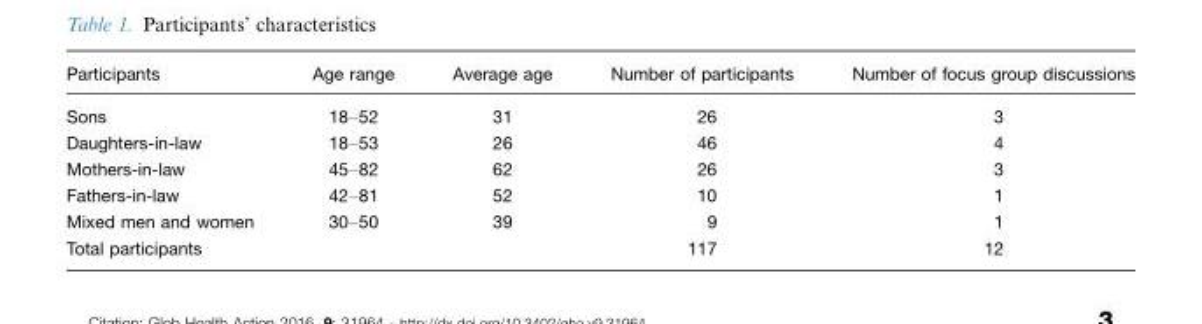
<table><thead><tr><td>Participants</td><td>Age range</td><td>Average age</td><td>Number of participants</td><td>Number of focus group discussions</td></tr></thead><tbody><tr><td>Sons</td><td>18–52</td><td>31</td><td>26</td><td>3</td></tr><tr><td>Daughters-in-law</td><td>18–53</td><td>26</td><td>46</td><td>4</td></tr><tr><td>Mothers-in-law</td><td>45–82</td><td>62</td><td>26</td><td>3</td></tr><tr><td>Fathers-in-law</td><td>42–81</td><td>52</td><td>10</td><td>1</td></tr><tr><td>Mixed men and women</td><td>30–50</td><td>39</td><td>9</td><td>1</td></tr><tr><td>Total participants</td><td></td><td></td><td>117</td><td>12</td></tr></tbody></table>